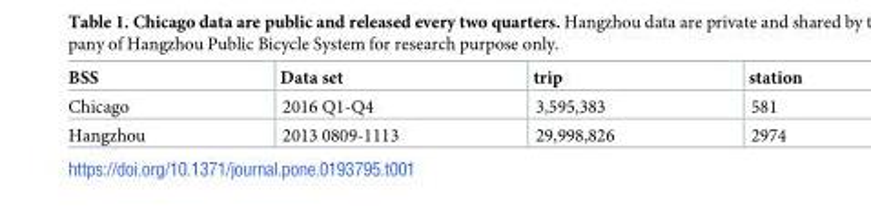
<table><thead><tr><td>BSS</td><td>Data set</td><td>trip</td><td>station</td></tr></thead><tbody><tr><td>Chicago</td><td>2016 Q1-Q4</td><td>3,595,383</td><td>581</td></tr><tr><td>Hangzhou</td><td>2013 0809-1113</td><td>29,998,826</td><td>2974</td></tr></tbody></table>